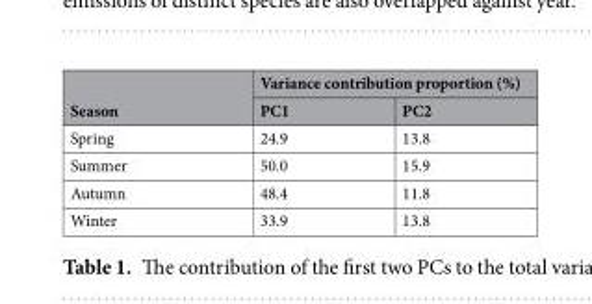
<table><thead><tr><td rowspan="2">Season</td><td colspan="2">Variance contribution proportion (%)</td></tr><tr><td>PC1</td><td>PC2</td></tr></thead><tbody><tr><td>Spring</td><td>24.9</td><td>13.8</td></tr><tr><td>Summer</td><td>50.0</td><td>15.9</td></tr><tr><td>Autumn</td><td>48.4</td><td>11.8</td></tr><tr><td>Winter</td><td>33.9</td><td>13.8</td></tr></tbody></table>